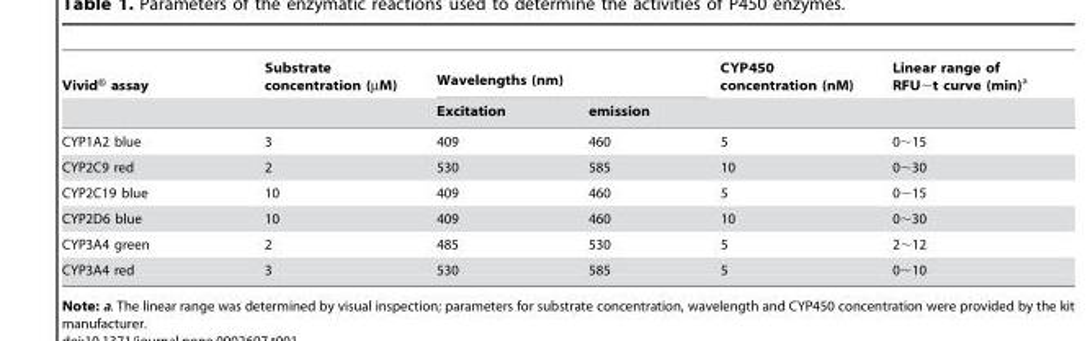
<table><thead><tr><td rowspan="2">Vivid® assay</td><td rowspan="2">Substrate concentration (µM)</td><td colspan="2">Wavelengths (nm)</td><td rowspan="2">CYP450 concentration (nM)</td><td rowspan="2">Linear range of RFU∼t curve (min)<sup>a</sup></td></tr><tr><td>Excitation</td><td>emission</td></tr></thead><tbody><tr><td>CYP1A2 blue</td><td>3</td><td>409</td><td>460</td><td>5</td><td>0∼15</td></tr><tr><td>CYP2C9 red</td><td>2</td><td>530</td><td>585</td><td>10</td><td>0∼30</td></tr><tr><td>CYP2C19 blue</td><td>10</td><td>409</td><td>460</td><td>5</td><td>0∼15</td></tr><tr><td>CYP2D6 blue</td><td>10</td><td>409</td><td>460</td><td>10</td><td>0∼30</td></tr><tr><td>CYP3A4 green</td><td>2</td><td>485</td><td>530</td><td>5</td><td>2∼12</td></tr><tr><td>CYP3A4 red</td><td>3</td><td>530</td><td>585</td><td>5</td><td>0∼10</td></tr></tbody></table>